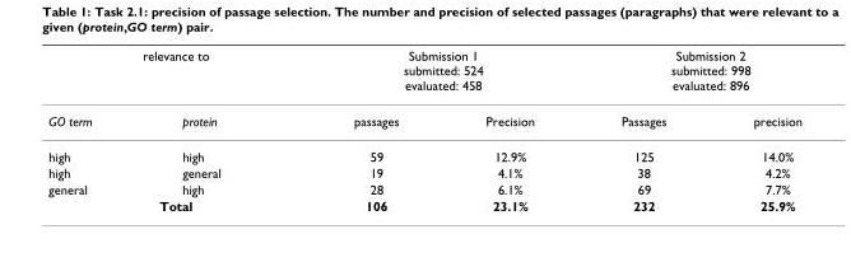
<table><thead><tr><td colspan="2">relevance to</td><td colspan="2">Submission 1 submitted: 524 evaluated: 458</td><td colspan="2">Submission 2 submitted: 998 evaluated: 896</td></tr><tr><td>GO term</td><td>protein</td><td>passages</td><td>Precision</td><td>Passages</td><td>precision</td></tr></thead><tbody><tr><td>high</td><td>high</td><td>59</td><td>12.9%</td><td>125</td><td>14.0%</td></tr><tr><td>high</td><td>general</td><td>19</td><td>4.1%</td><td>38</td><td>4.2%</td></tr><tr><td>general</td><td>high</td><td>28</td><td>6.1%</td><td>69</td><td>7.7%</td></tr><tr><td colspan="2">Total</td><td>106</td><td>23.1%</td><td>232</td><td>25.9%</td></tr></tbody></table>